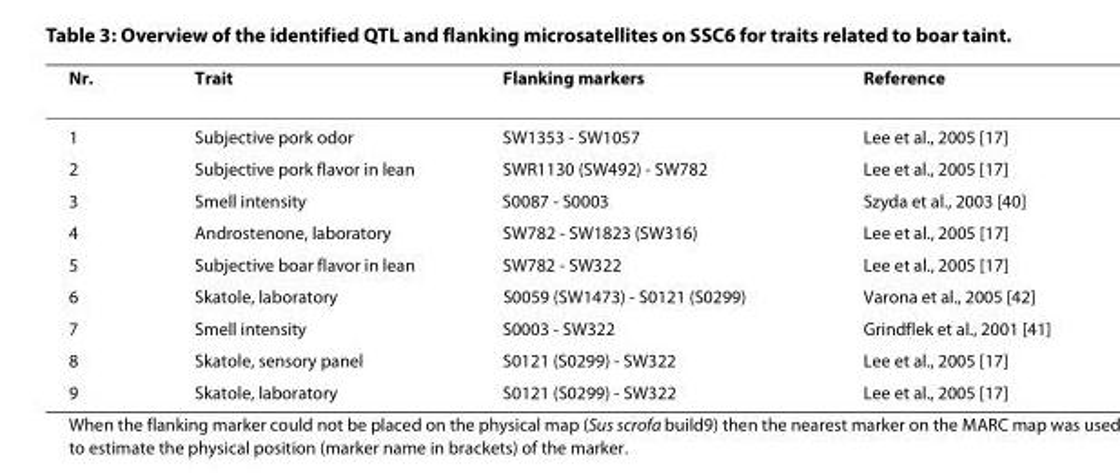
<table><thead><tr><td>Nr.</td><td>Trait</td><td>Flanking markers</td><td>Reference</td></tr></thead><tbody><tr><td>1</td><td>Subjective pork odor</td><td>SW1353 - SW1057</td><td>Lee et al., 2005 [17]</td></tr><tr><td>2</td><td>Subjective pork flavor in lean</td><td>SWR1130 (SW492) - SW782</td><td>Lee et al., 2005 [17]</td></tr><tr><td>3</td><td>Smell intensity</td><td>S0087 - S0003</td><td>Szyda et al., 2003 [40]</td></tr><tr><td>4</td><td>Androstenone, laboratory</td><td>SW782 - SW1823 (SW316)</td><td>Lee et al., 2005 [17]</td></tr><tr><td>5</td><td>Subjective boar flavor in lean</td><td>SW782 - SW322</td><td>Lee et al., 2005 [17]</td></tr><tr><td>6</td><td>Skatole, laboratory</td><td>S0059 (SW1473) - S0121 (S0299)</td><td>Varona et al., 2005 [42]</td></tr><tr><td>7</td><td>Smell intensity</td><td>S0003 - SW322</td><td>Grindflek et al., 2001 [41]</td></tr><tr><td>8</td><td>Skatole, sensory panel</td><td>S0121 (S0299) - SW322</td><td>Lee et al., 2005 [17]</td></tr><tr><td>9</td><td>Skatole, laboratory</td><td>S0121 (S0299) - SW322</td><td>Lee et al., 2005 [17]</td></tr></tbody></table>